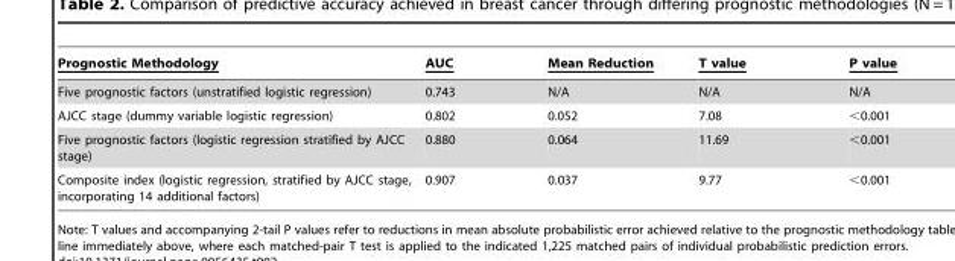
<table><thead><tr><td>Prognostic Methodology</td><td>AUC</td><td>Mean Reduction</td><td>T value</td><td>P value</td></tr></thead><tbody><tr><td>Five prognostic factors (unstratified logistic regression)</td><td>0.743</td><td>N/A</td><td>N/A</td><td>N/A</td></tr><tr><td>AJCC stage (dummy variable logistic regression)</td><td>0.802</td><td>0.052</td><td>7.08</td><td>&lt;0.001</td></tr><tr><td>Five prognostic factors (logistic regression stratified by AJCC stage)</td><td>0.880</td><td>0.064</td><td>11.69</td><td>&lt;0.001</td></tr><tr><td>Composite index (logistic regression, stratified by AJCC stage, incorporating 14 additional factors)</td><td>0.907</td><td>0.037</td><td>9.77</td><td>&lt;0.001</td></tr></tbody></table>